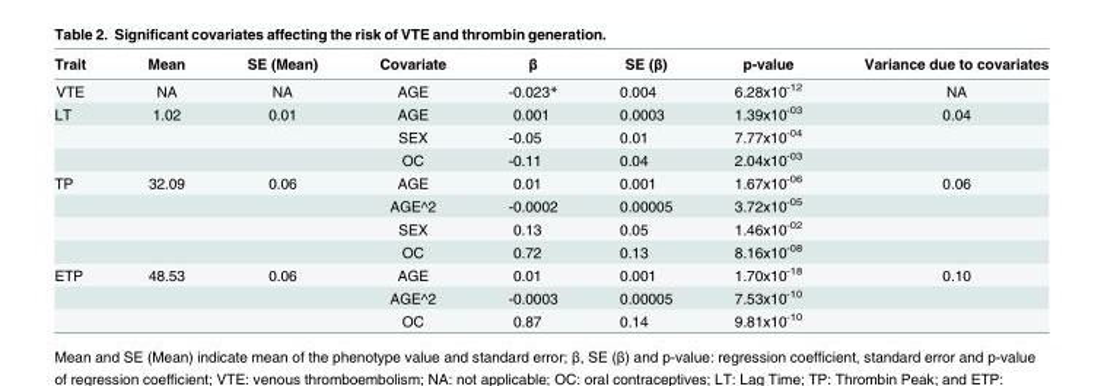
<table><thead><tr><td>Trait</td><td>Mean</td><td>SE (Mean)</td><td>Covariate</td><td>β</td><td>SE (β)</td><td>p-value</td><td>Variance due to covariates</td></tr></thead><tbody><tr><td>VTE</td><td>NA</td><td>NA</td><td>AGE</td><td>-0.023*</td><td>0.004</td><td>6.28x10<sup>-12</sup></td><td>NA</td></tr><tr><td rowspan="3">LT</td><td>1.02</td><td>0.01</td><td>AGE</td><td>0.001</td><td>0.0003</td><td>1.39x10<sup>-03</sup></td><td>0.04</td></tr><tr><td></td><td></td><td>SEX</td><td>-0.05</td><td>0.01</td><td>7.77x10<sup>-04</sup></td><td></td></tr><tr><td></td><td></td><td>OC</td><td>-0.11</td><td>0.04</td><td>2.04x10<sup>-03</sup></td><td></td></tr><tr><td rowspan="4">TP</td><td>32.09</td><td>0.06</td><td>AGE</td><td>0.01</td><td>0.001</td><td>1.67x10<sup>-06</sup></td><td>0.06</td></tr><tr><td></td><td></td><td>AGE^2</td><td>-0.0002</td><td>0.00005</td><td>3.72x10<sup>-05</sup></td><td></td></tr><tr><td></td><td></td><td>SEX</td><td>0.13</td><td>0.05</td><td>1.46x10<sup>-02</sup></td><td></td></tr><tr><td></td><td></td><td>OC</td><td>0.72</td><td>0.13</td><td>8.16x10<sup>-08</sup></td><td></td></tr><tr><td rowspan="3">ETP</td><td>48.53</td><td>0.06</td><td>AGE</td><td>0.01</td><td>0.001</td><td>1.70x10<sup>-18</sup></td><td>0.10</td></tr><tr><td></td><td></td><td>AGE^2</td><td>-0.0003</td><td>0.00005</td><td>7.53x10<sup>-10</sup></td><td></td></tr><tr><td></td><td></td><td>OC</td><td>0.87</td><td>0.14</td><td>9.81x10<sup>-10</sup></td><td></td></tr></tbody></table>